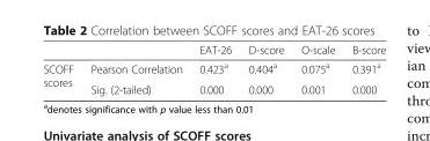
<table><thead><tr><td></td><td></td><td>EAT-26</td><td>D-score</td><td>O-scale</td><td>B-score</td></tr></thead><tbody><tr><td rowspan="2">SCOFF scores</td><td>Pearson Correlation</td><td>0.423<sup>a</sup></td><td>0.404<sup>a</sup></td><td>0.075<sup>a</sup></td><td>0.391<sup>a</sup></td></tr><tr><td>Sig. (2-tailed)</td><td>0.000</td><td>0.000</td><td>0.001</td><td>0.000</td></tr></tbody></table>